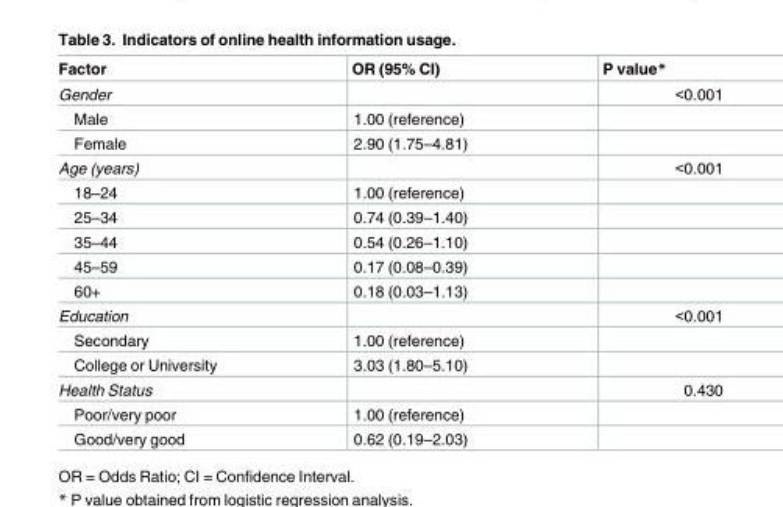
<table><thead><tr><td>Factor</td><td>OR (95% CI)</td><td>P value*</td></tr></thead><tbody><tr><td>Gender</td><td></td><td>&lt;0.001</td></tr><tr><td>Male</td><td>1.00 (reference)</td><td></td></tr><tr><td>Female</td><td>2.90 (1.75–4.81)</td><td></td></tr><tr><td>Age (years)</td><td></td><td>&lt;0.001</td></tr><tr><td>18–24</td><td>1.00 (reference)</td><td></td></tr><tr><td>25–34</td><td>0.74 (0.39–1.40)</td><td></td></tr><tr><td>35–44</td><td>0.54 (0.26–1.10)</td><td></td></tr><tr><td>45–59</td><td>0.17 (0.08–0.39)</td><td></td></tr><tr><td>60+</td><td>0.18 (0.03–1.13)</td><td></td></tr><tr><td>Education</td><td></td><td>&lt;0.001</td></tr><tr><td>Secondary</td><td>1.00 (reference)</td><td></td></tr><tr><td>College or University</td><td>3.03 (1.80–5.10)</td><td></td></tr><tr><td>Health Status</td><td></td><td>0.430</td></tr><tr><td>Poor/very poor</td><td>1.00 (reference)</td><td></td></tr><tr><td>Good/very good</td><td>0.62 (0.19–2.03)</td><td></td></tr></tbody></table>